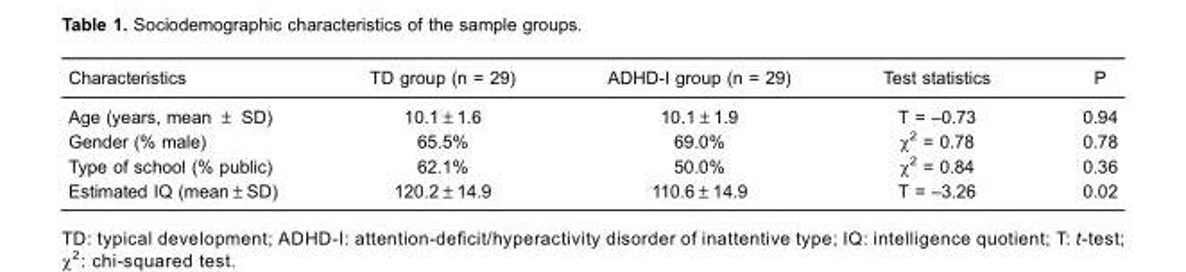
<table><thead><tr><td>Characteristics</td><td>TD group (n = 29)</td><td>ADHD-I group (n = 29)</td><td>Test statistics</td><td>P</td></tr></thead><tbody><tr><td>Age (years, mean ± SD)</td><td>10.1±1.6</td><td>10.1±1.9</td><td>T = –0.73</td><td>0.94</td></tr><tr><td>Gender (% male)</td><td>65.5%</td><td>69.0%</td><td>χ<sup>2</sup> = 0.78</td><td>0.78</td></tr><tr><td>Type of school (% public)</td><td>62.1%</td><td>50.0%</td><td>χ<sup>2</sup> = 0.84</td><td>0.36</td></tr><tr><td>Estimated IQ (mean±SD)</td><td>120.2±14.9</td><td>110.6±14.9</td><td>T = –3.26</td><td>0.02</td></tr></tbody></table>